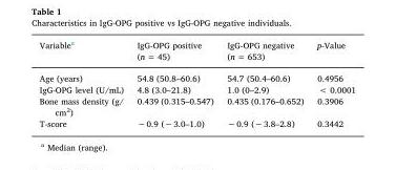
<table><thead><tr><td>Variable<sup>a</sup></td><td>IgG-OPG positive (n = 45)</td><td>IgG-OPG negative (n = 653)</td><td>p-Value</td></tr></thead><tbody><tr><td>Age (years)</td><td>54.8 (50.8–60.6)</td><td>54.7 (50.4–60.6)</td><td>0.4956</td></tr><tr><td>IgG-OPG level (U/mL)</td><td>4.8 (3.0–21.8)</td><td>1.0 (0–2.9)</td><td>&lt; 0.0001</td></tr><tr><td>Bone mass density (g/ cm<sup>2</sup>)</td><td>0.439 (0.315–0.547)</td><td>0.435 (0.176–0.652)</td><td>0.3906</td></tr><tr><td>T-score</td><td>−0.9 (−3.0–1.0)</td><td>−0.9 (−3.8–2.8)</td><td>0.3442</td></tr></tbody></table>